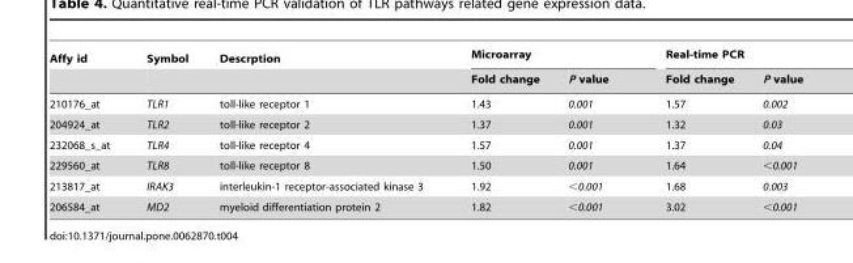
<table><thead><tr><td rowspan="2">Affy id</td><td rowspan="2">Symbol</td><td rowspan="2">Descrption</td><td colspan="2">Microarray</td><td colspan="2">Real-time PCR</td></tr><tr><td>Fold change</td><td>P value</td><td>Fold change</td><td>P value</td></tr></thead><tbody><tr><td>210176_at</td><td>TLR1</td><td>toll-like receptor 1</td><td>1.43</td><td>0.001</td><td>1.57</td><td>0.002</td></tr><tr><td>204924_at</td><td>TLR2</td><td>toll-like receptor 2</td><td>1.37</td><td>0.001</td><td>1.32</td><td>0.03</td></tr><tr><td>232068_s_at</td><td>TLR4</td><td>toll-like receptor 4</td><td>1.57</td><td>0.001</td><td>1.37</td><td>0.04</td></tr><tr><td>229560_at</td><td>TLR8</td><td>toll-like receptor 8</td><td>1.50</td><td>0.001</td><td>1.64</td><td>&lt;0.001</td></tr><tr><td>213817_at</td><td>IRAK3</td><td>interleukin-1 receptor-associated kinase 3</td><td>1.92</td><td>&lt;0.001</td><td>1.68</td><td>0.003</td></tr><tr><td>206584_at</td><td>MD2</td><td>myeloid differentiation protein 2</td><td>1.82</td><td>&lt;0.001</td><td>3.02</td><td>&lt;0.001</td></tr></tbody></table>